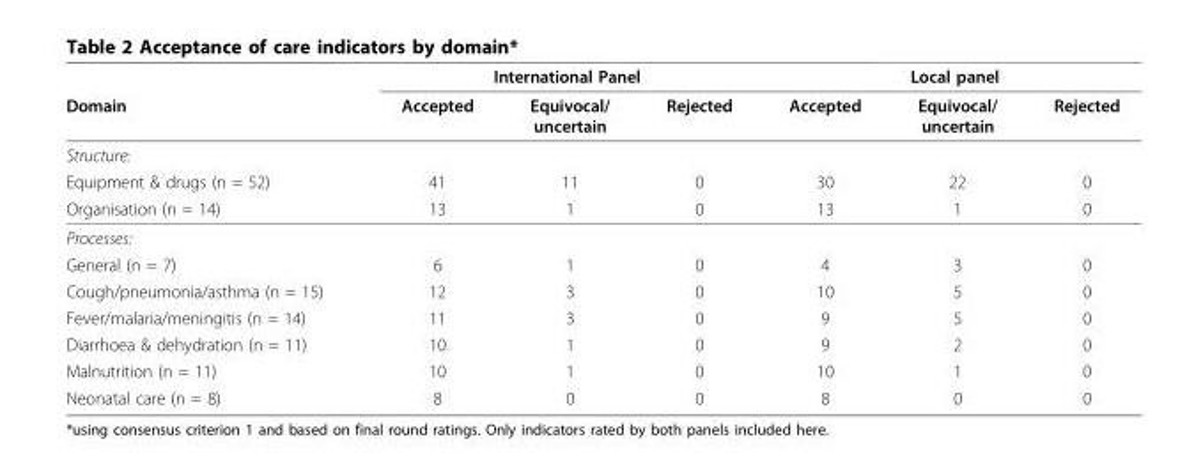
<table><thead><tr><td rowspan="2">Domain</td><td colspan="3">International Panel</td><td colspan="3">Local panel</td></tr><tr><td>Accepted</td><td>Equivocal/ uncertain</td><td>Rejected</td><td>Accepted</td><td>Equivocal/ uncertain</td><td>Rejected</td></tr></thead><tbody><tr><td colspan="7">Structure:</td></tr><tr><td>Equipment &amp; drugs (n = 52)</td><td>41</td><td>11</td><td>0</td><td>30</td><td>22</td><td>0</td></tr><tr><td>Organisation (n = 14)</td><td>13</td><td>1</td><td>0</td><td>13</td><td>1</td><td>0</td></tr><tr><td colspan="7">Processes:</td></tr><tr><td>General (n = 7)</td><td>6</td><td>1</td><td>0</td><td>4</td><td>3</td><td>0</td></tr><tr><td>Cough/pneumonia/asthma (n = 15)</td><td>12</td><td>3</td><td>0</td><td>10</td><td>5</td><td>0</td></tr><tr><td>Fever/malaria/meningitis (n = 14)</td><td>11</td><td>3</td><td>0</td><td>9</td><td>5</td><td>0</td></tr><tr><td>Diarrhoea &amp; dehydration (n = 11)</td><td>10</td><td>1</td><td>0</td><td>9</td><td>2</td><td>0</td></tr><tr><td>Malnutrition (n = 11)</td><td>10</td><td>1</td><td>0</td><td>10</td><td>1</td><td>0</td></tr><tr><td>Neonatal care (n = 8)</td><td>8</td><td>0</td><td>0</td><td>8</td><td>0</td><td>0</td></tr></tbody></table>